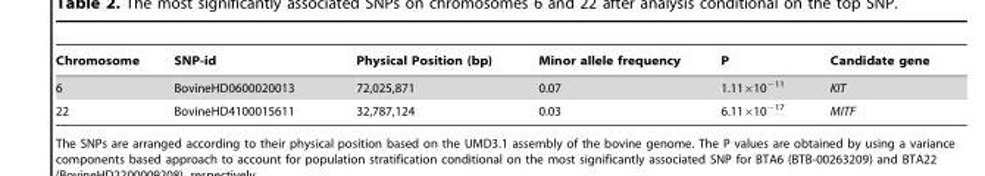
<table><thead><tr><td>Chromosome</td><td>SNP-id</td><td>Physical Position (bp)</td><td>Minor allele frequency</td><td>P</td><td>Candidate gene</td></tr></thead><tbody><tr><td>6</td><td>BovineHD0600020013</td><td>72,025,871</td><td>0.07</td><td>1.11×10<sup>−11</sup></td><td>KIT</td></tr><tr><td>22</td><td>BovineHD4100015611</td><td>32,787,124</td><td>0.03</td><td>6.11×10<sup>−17</sup></td><td>MITF</td></tr></tbody></table>